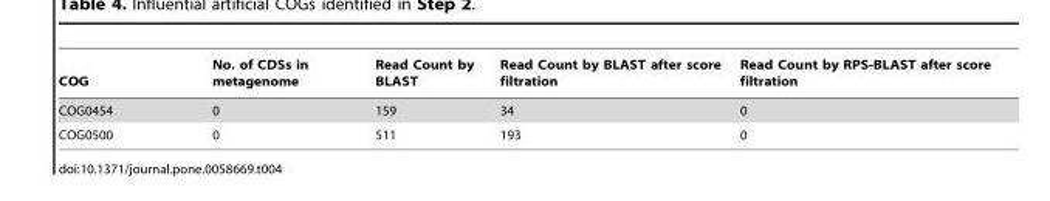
<table><thead><tr><td>COG</td><td>No. of CDSs in metagenome</td><td>Read Count by BLAST</td><td>Read Count by BLAST after score filtration</td><td>Read Count by RPS-BLAST after score filtration</td></tr></thead><tbody><tr><td>COG0454</td><td>0</td><td>159</td><td>34</td><td>0</td></tr><tr><td>COG0500</td><td>0</td><td>511</td><td>193</td><td>0</td></tr></tbody></table>